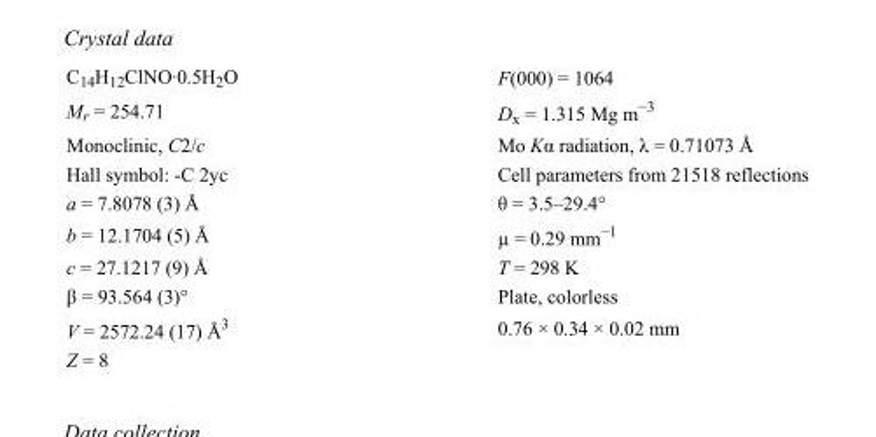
<table><tbody><tr><td>C<sub>14</sub>H<sub>12</sub>ClNO·0.5H<sub>2</sub>O</td><td>F(000) = 1064</td></tr><tr><td>M<sub>r</sub> = 254.71</td><td>D<sub>x</sub> = 1.315 Mg m<sup>−3</sup></td></tr><tr><td>Monoclinic, C2/c</td><td>Mo Kα radiation, λ = 0.71073 Å</td></tr><tr><td>Hall symbol: -C 2yc</td><td>Cell parameters from 21518 reflections</td></tr><tr><td>a = 7.8078 (3) Å</td><td>θ = 3.5–29.4°</td></tr><tr><td>b = 12.1704 (5) Å</td><td>µ = 0.29 mm<sup>−1</sup></td></tr><tr><td>c = 27.1217 (9) Å</td><td>T = 298 K</td></tr><tr><td>β = 93.564 (3)°</td><td>Plate, colorless</td></tr><tr><td>V = 2572.24 (17) Å<sup>3</sup></td><td>0.76 × 0.34 × 0.02 mm</td></tr><tr><td>Z = 8</td><td></td></tr></tbody></table>